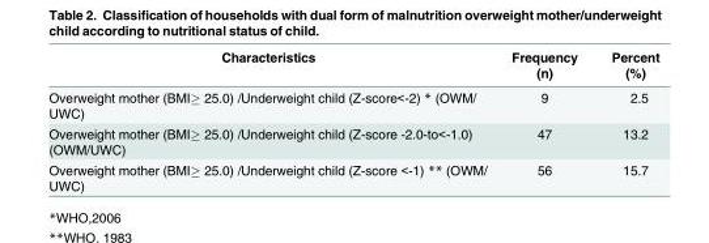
<table><thead><tr><td>Characteristics</td><td>Frequency (n)</td><td>Percent (%)</td></tr></thead><tbody><tr><td>Overweight mother (BMI≥ 25.0) /Underweight child (Z-score&lt;-2) * (OWM/ UWC)</td><td>9</td><td>2.5</td></tr><tr><td>Overweight mother (BMI≥ 25.0) /Underweight child (Z-score -2.0-to&lt;-1.0) (OWM/UWC)</td><td>47</td><td>13.2</td></tr><tr><td>Overweight mother (BMI≥ 25.0) /Underweight child (Z-score &lt;-1) ** (OWM/ UWC)</td><td>56</td><td>15.7</td></tr></tbody></table>